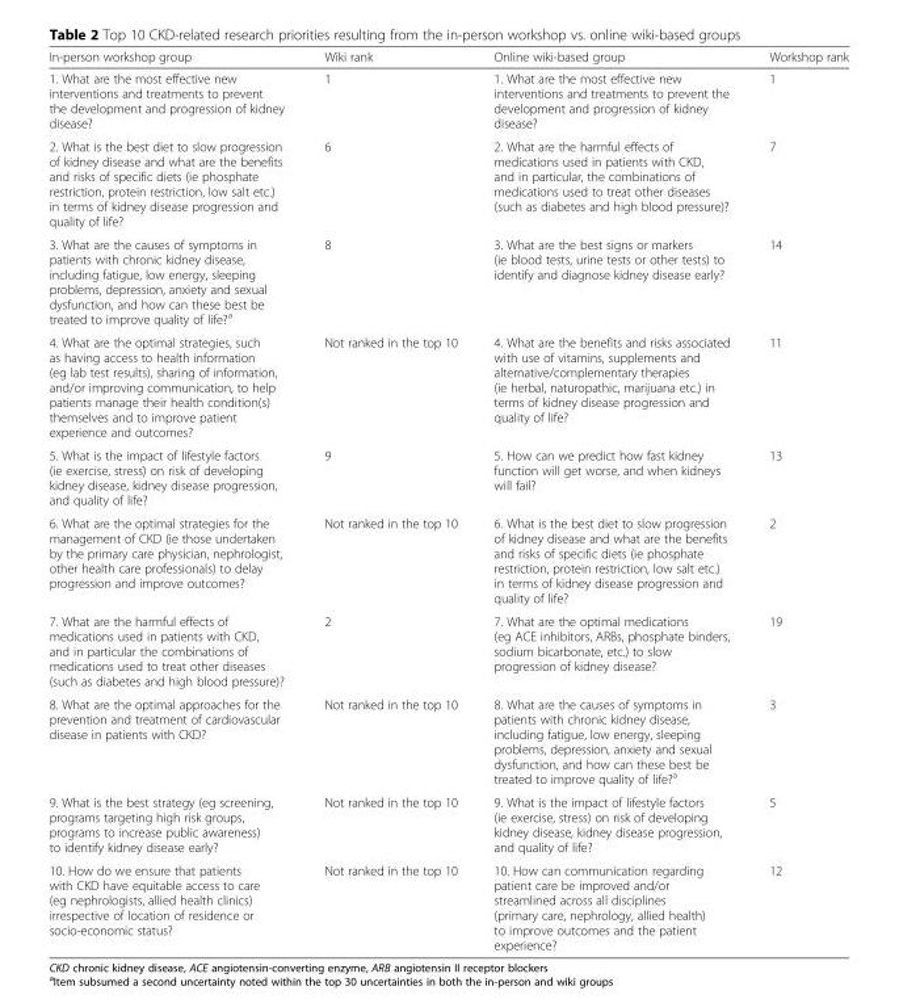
<table><thead><tr><td>In-person workshop group</td><td>Wiki rank</td><td>Online wiki-based group</td><td>Workshop rank</td></tr></thead><tbody><tr><td>1. What are the most effective new interventions and treatments to prevent the development and progression of kidney disease?</td><td>1</td><td>1. What are the most effective new interventions and treatments to prevent the development and progression of kidney disease?</td><td>1</td></tr><tr><td>2. What is the best diet to slow progression of kidney disease and what are the benefits and risks of specific diets (ie phosphate restriction, protein restriction, low salt etc.) in terms of kidney disease progression and quality of life?</td><td>6</td><td>2. What are the harmful effects of medications used in patients with CKD, and in particular, the combinations of medications used to treat other diseases (such as diabetes and high blood pressure)?</td><td>7</td></tr><tr><td>3. What are the causes of symptoms in patients with chronic kidney disease, including fatigue, low energy, sleeping problems, depression, anxiety and sexual dysfunction, and how can these best be treated to improve quality of life?<sup>a</sup></td><td>8</td><td>3. What are the best signs or markers (ie blood tests, urine tests or other tests) to identify and diagnose kidney disease early?</td><td>14</td></tr><tr><td>4. What are the optimal strategies, such as having access to health information (eg lab test results), sharing of information, and/or improving communication, to help patients manage their health condition(s) themselves and to improve patient experience and outcomes?</td><td>Not ranked in the top 10</td><td>4. What are the benefits and risks associated with use of vitamins, supplements and alternative/complementary therapies (ie herbal, naturopathic, marijuana etc.) in terms of kidney disease progression and quality of life?</td><td>11</td></tr><tr><td>5. What is the impact of lifestyle factors (ie exercise, stress) on risk of developing kidney disease, kidney disease progression, and quality of life?</td><td>9</td><td>5. How can we predict how fast kidney function will get worse, and when kidneys will fail?</td><td>13</td></tr><tr><td>6. What are the optimal strategies for the management of CKD (ie those undertaken by the primary care physician, nephrologist, other health care professionals) to delay progression and improve outcomes?</td><td>Not ranked in the top 10</td><td>6. What is the best diet to slow progression of kidney disease and what are the benefits and risks of specific diets (ie phosphate restriction, protein restriction, low salt etc.) in terms of kidney disease progression and quality of life?</td><td>2</td></tr><tr><td>7. What are the harmful effects of medications used in patients with CKD, and in particular the combinations of medications used to treat other diseases (such as diabetes and high blood pressure)?</td><td>2</td><td>7. What are the optimal medications (eg ACE inhibitors, ARBs, phosphate binders, sodium bicarbonate, etc.) to slow progression of kidney disease?</td><td>19</td></tr><tr><td>8. What are the optimal approaches for the prevention and treatment of cardiovascular disease in patients with CKD?</td><td>Not ranked in the top 10</td><td>8. What are the causes of symptoms in patients with chronic kidney disease, including fatigue, low energy, sleeping problems, depression, anxiety and sexual dysfunction, and how can these best be treated to improve quality of life?<sup>a</sup></td><td>3</td></tr><tr><td>9. What is the best strategy (eg screening, programs targeting high risk groups, programs to increase public awareness) to identify kidney disease early?</td><td>Not ranked in the top 10</td><td>9. What is the impact of lifestyle factors (ie exercise, stress) on risk of developing kidney disease, kidney disease progression, and quality of life?</td><td>5</td></tr><tr><td>10. How do we ensure that patients with CKD have equitable access to care (eg nephrologists, allied health clinics) irrespective of location of residence or socio-economic status?</td><td>Not ranked in the top 10</td><td>10. How can communication regarding patient care be improved and/or streamlined across all disciplines (primary care, nephrology, allied health) to improve outcomes and the patient experience?</td><td>12</td></tr></tbody></table>